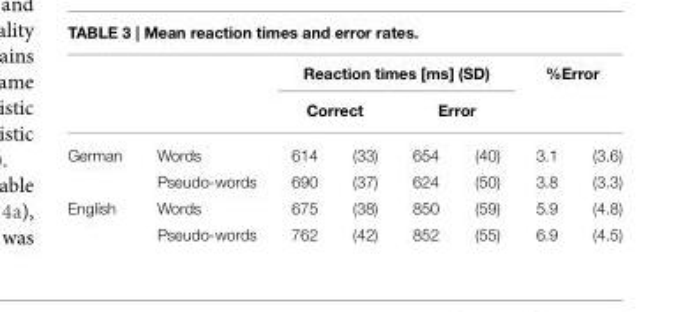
<table><thead><tr><td rowspan="3">German</td><td rowspan="3">Words</td><td colspan="4">Reaction times [ms] (SD)</td><td colspan="2">%Error</td></tr><tr><td colspan="2">Correct</td><td colspan="2">Error</td><td rowspan="2">3.1</td><td rowspan="2">(3.6)</td></tr><tr><td>614</td><td>(33)</td><td>654</td><td>(40)</td></tr></thead><tbody><tr><td></td><td>Pseudo-words</td><td>690</td><td>(37)</td><td>624</td><td>(50)</td><td>3.8</td><td>(3.3)</td></tr><tr><td rowspan="2">English</td><td>Words</td><td>675</td><td>(38)</td><td>850</td><td>(59)</td><td>5.9</td><td>(4.8)</td></tr><tr><td>Pseudo-words</td><td>762</td><td>(42)</td><td>852</td><td>(55)</td><td>6.9</td><td>(4.5)</td></tr></tbody></table>